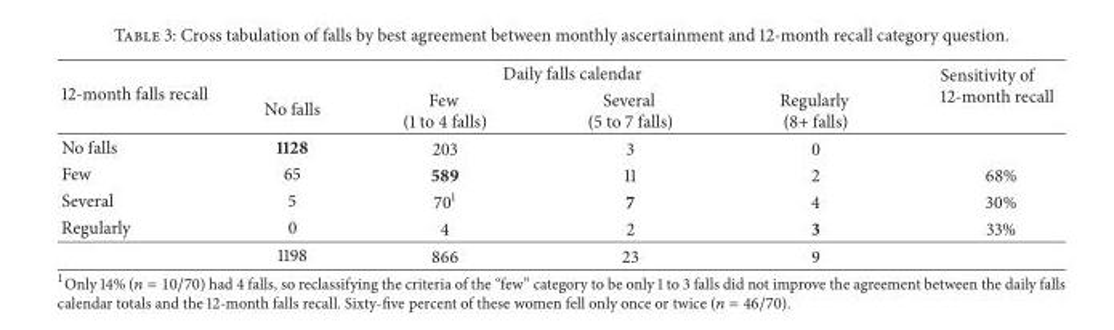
<table><thead><tr><td rowspan="2">12-month falls recall</td><td colspan="4">Daily falls calendar</td><td rowspan="2">Sensitivity of 12-month recall</td></tr><tr><td>No falls</td><td>Few (1 to 4 falls)</td><td>Several (5 to 7 falls)</td><td>Regularly (8+ falls)</td></tr></thead><tbody><tr><td>No falls</td><td>1128</td><td>203</td><td>3</td><td>0</td><td></td></tr><tr><td>Few</td><td>65</td><td>589</td><td>11</td><td>2</td><td>68%</td></tr><tr><td>Several</td><td>5</td><td>70<sup>1</sup></td><td>7</td><td>4</td><td>30%</td></tr><tr><td rowspan="2">Regularly</td><td>0</td><td>4</td><td>2</td><td>3</td><td>33%</td></tr><tr><td>1198</td><td>866</td><td>23</td><td>9</td><td></td></tr></tbody></table>